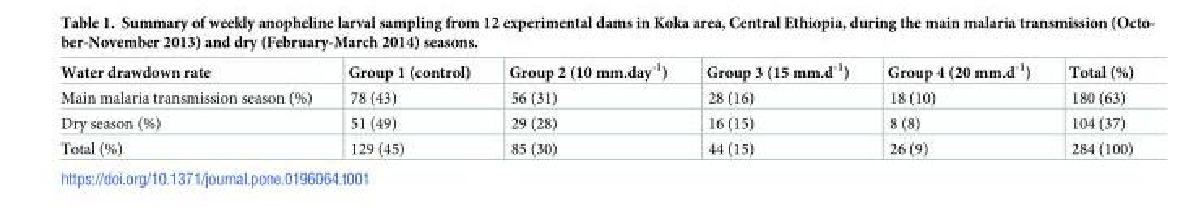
<table><thead><tr><td>Water drawdown rate</td><td>Group 1 (control)</td><td>Group 2 (10 mm.day<sup>-1</sup>)</td><td>Group 3 (15 mm.d<sup>-1</sup>)</td><td>Group 4 (20 mm.d<sup>-1</sup>)</td><td>Total (%)</td></tr></thead><tbody><tr><td>Main malaria transmission season (%)</td><td>78 (43)</td><td>56 (31)</td><td>28 (16)</td><td>18 (10)</td><td>180 (63)</td></tr><tr><td>Dry season (%)</td><td>51 (49)</td><td>29 (28)</td><td>16 (15)</td><td>8 (8)</td><td>104 (37)</td></tr><tr><td>Total (%)</td><td>129 (45)</td><td>85 (30)</td><td>44 (15)</td><td>26 (9)</td><td>284 (100)</td></tr></tbody></table>